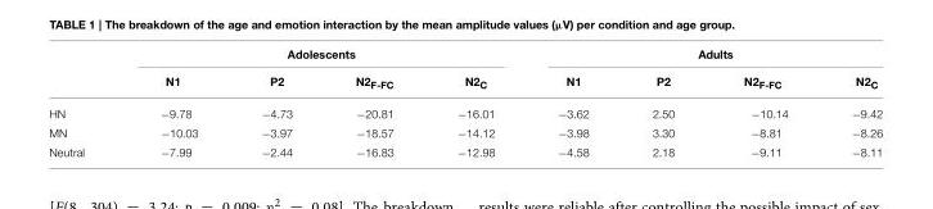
<table><thead><tr><td rowspan="2"></td><td colspan="4">Adolescents</td><td colspan="4">Adults</td></tr><tr><td>N1</td><td>P2</td><td>N2<sub>F-FC</sub></td><td>N2<sub>C</sub></td><td>N1</td><td>P2</td><td>N2<sub>F-FC</sub></td><td>N2<sub>C</sub></td></tr></thead><tbody><tr><td>HN</td><td>−9.78</td><td>−4.73</td><td>−20.81</td><td>−16.01</td><td>−3.62</td><td>2.50</td><td>−10.14</td><td>−9.42</td></tr><tr><td>MN</td><td>−10.03</td><td>−3.97</td><td>−18.57</td><td>−14.12</td><td>−3.98</td><td>3.30</td><td>−8.81</td><td>−8.26</td></tr><tr><td>Neutral</td><td>−7.99</td><td>−2.44</td><td>−16.83</td><td>−12.98</td><td>−4.58</td><td>2.18</td><td>−9.11</td><td>−8.11</td></tr></tbody></table>